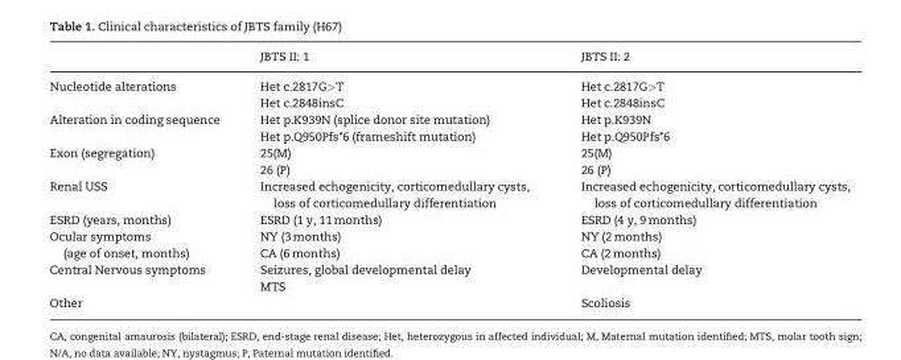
<table><thead><tr><td></td><td>JBTS II: 1</td><td>JBTS II: 2</td></tr></thead><tbody><tr><td rowspan="2">Nucleotide alterations</td><td>Het c.2817G&gt;T</td><td>Het c.2817G&gt;T</td></tr><tr><td>Het c.2848insC</td><td>Het c.2848insC</td></tr><tr><td rowspan="2">Alteration in coding sequence</td><td>Het p.K939N (splice donor site mutation)</td><td>Het p.K939N</td></tr><tr><td>Het p.Q950Pfs*6 (frameshift mutation)</td><td>Het p.Q950Pfs*6</td></tr><tr><td rowspan="2">Exon (segregation)</td><td>25(M)</td><td>25(M)</td></tr><tr><td>26 (P)</td><td>26 (P)</td></tr><tr><td>Renal USS</td><td>Increased echogenicity, corticomedullary cysts, loss of corticomedullary differentiation</td><td>Increased echogenicity, corticomedullary cysts, loss of corticomedullary differentiation</td></tr><tr><td>ESRD (years, months)</td><td>ESRD (1 y, 11 months)</td><td>ESRD (4 y, 9 months)</td></tr><tr><td rowspan="2">Ocular symptoms (age of onset, months)</td><td>NY (3 months)</td><td>NY (2 months)</td></tr><tr><td>CA (6 months)</td><td>CA (2 months)</td></tr><tr><td rowspan="2">Central Nervous symptoms</td><td>Seizures, global developmental delay</td><td>Developmental delay</td></tr><tr><td>MTS</td><td></td></tr><tr><td>Other</td><td></td><td>Scoliosis</td></tr></tbody></table>